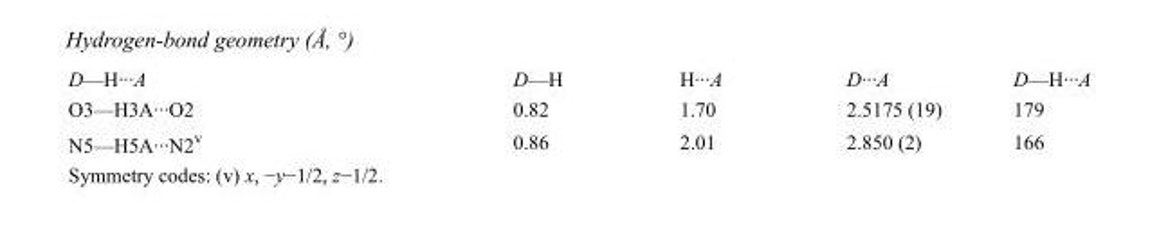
<table><tbody><tr><td>D—H···A</td><td>D—H</td><td>H···A</td><td>D···A</td><td>D—H···A</td></tr><tr><td>O3—H3A···O2</td><td>0.82</td><td>1.70</td><td>2.5175 (19)</td><td>179</td></tr><tr><td>N5—H5A···N2<sup>v</sup></td><td>0.86</td><td>2.01</td><td>2.850 (2)</td><td>166</td></tr></tbody></table>